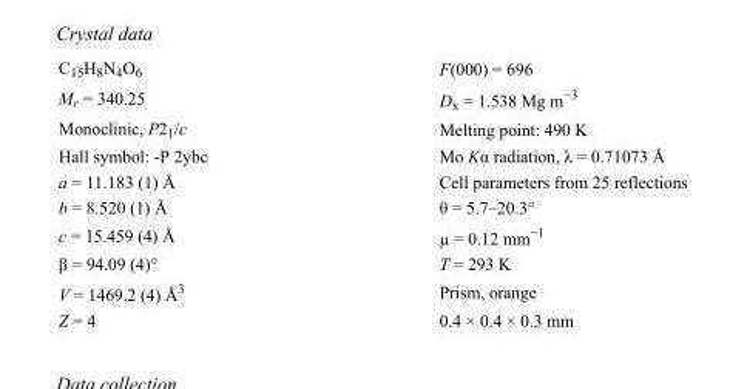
<table><tbody><tr><td>C<sub>15</sub>H<sub>8</sub>N<sub>4</sub>O<sub>6</sub></td><td>F(000) = 696</td></tr><tr><td>M<sub>r</sub> = 340.25</td><td>D<sub>x</sub> = 1.538 Mg m<sup>−3</sup></td></tr><tr><td>Monoclinic, P2<sub>1</sub>/c</td><td>Melting point: 490 K</td></tr><tr><td>Hall symbol: -P 2ybc</td><td>Mo Kα radiation, λ = 0.71073 Å</td></tr><tr><td>a = 11.183 (1) Å</td><td>Cell parameters from 25 reflections</td></tr><tr><td>b = 8.520 (1) Å</td><td>θ = 5.7–20.3°</td></tr><tr><td>c = 15.459 (4) Å</td><td>µ = 0.12 mm<sup>−1</sup></td></tr><tr><td>β = 94.09 (4)°</td><td>T = 293 K</td></tr><tr><td>V = 1469.2 (4) Å<sup>3</sup></td><td>Prism, orange</td></tr><tr><td>Z = 4</td><td>0.4 × 0.4 × 0.3 mm</td></tr></tbody></table>